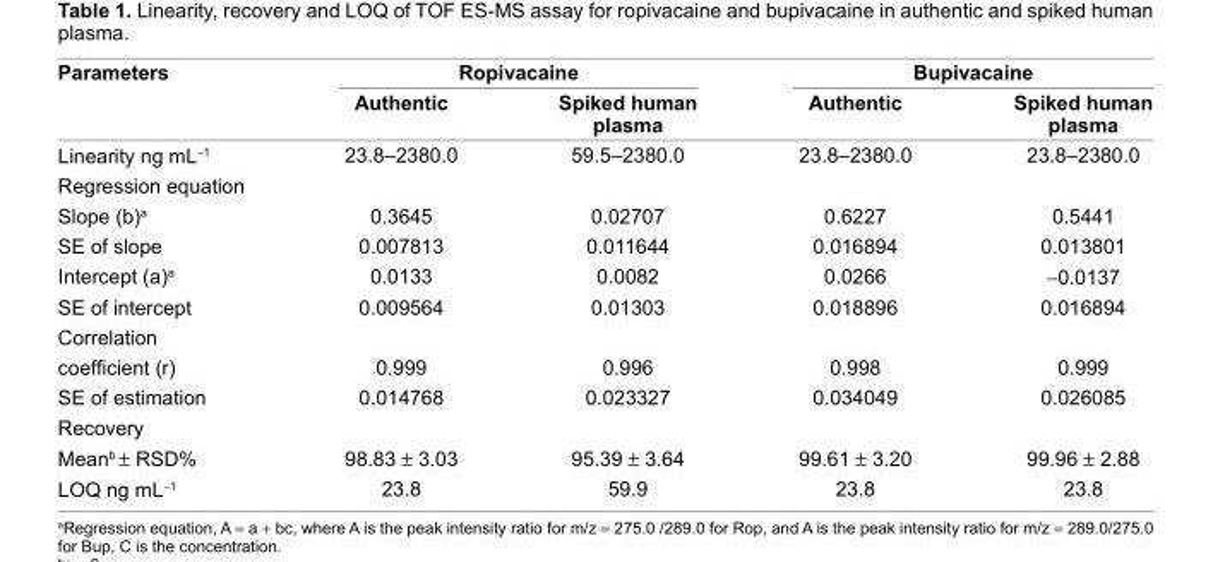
<table><thead><tr><td rowspan="2">parameters</td><td colspan="2">Ropivacaine</td><td colspan="2">Bupivacaine</td></tr><tr><td>Authentic</td><td>spiked human plasma</td><td>Authentic</td><td>spiked human plasma</td></tr></thead><tbody><tr><td>Linearity ng mL<sup>-1</sup></td><td>23.8–2380.0</td><td>59.5–2380.0</td><td>23.8–2380.0</td><td>23.8–2380.0</td></tr><tr><td colspan="5">regression equation</td></tr><tr><td>slope (b)<sup>a</sup></td><td>0.3645</td><td>0.02707</td><td>0.6227</td><td>0.5441</td></tr><tr><td>se of slope</td><td>0.007813</td><td>0.011644</td><td>0.016894</td><td>0.013801</td></tr><tr><td>Intercept (a)<sup>a</sup></td><td>0.0133</td><td>0.0082</td><td>0.0266</td><td>-0.0137</td></tr><tr><td>se of intercept</td><td>0.009564</td><td>0.01303</td><td>0.018896</td><td>0.016894</td></tr><tr><td>Correlation coefficient (r)</td><td>0.999</td><td>0.996</td><td>0.998</td><td>0.999</td></tr><tr><td>se of estimation</td><td>0.014768</td><td>0.023327</td><td>0.034049</td><td>0.026085</td></tr><tr><td colspan="5">recovery</td></tr><tr><td>Mean<sup>b</sup> ± rsD%</td><td>98.83 ± 3.03</td><td>95.39 ± 3.64</td><td>99.61 ± 3.20</td><td>99.96 ± 2.88</td></tr><tr><td>LOQ ng mL<sup>-1</sup></td><td>23.8</td><td>59.9</td><td>23.8</td><td>23.8</td></tr></tbody></table>